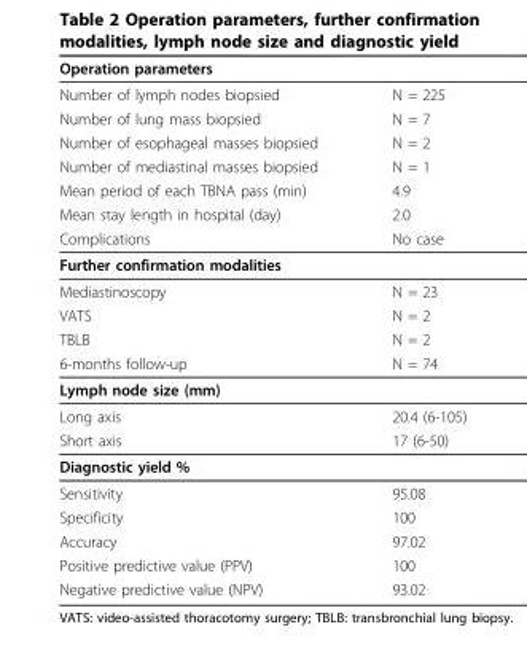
<table><thead><tr><td colspan="2">Operation parameters</td></tr><tr><td>Number of lymph nodes biopsied</td><td>N = 225</td></tr></thead><tbody><tr><td>Number of lung mass biopsied</td><td>N = 7</td></tr><tr><td>Number of esophageal masses biopsied</td><td>N = 2</td></tr><tr><td>Number of mediastinal masses biopsied</td><td>N = 1</td></tr><tr><td>Mean period of each TBNA pass (min)</td><td>4.9</td></tr><tr><td>Mean stay length in hospital (day)</td><td>2.0</td></tr><tr><td>Complications</td><td>No case</td></tr><tr><td colspan="2">Further confirmation modalities</td></tr><tr><td>Mediastinoscopy</td><td>N = 23</td></tr><tr><td>VATS</td><td>N = 2</td></tr><tr><td>TBLB</td><td>N = 2</td></tr><tr><td>6-months follow-up</td><td>N = 74</td></tr><tr><td colspan="2">Lymph node size (mm)</td></tr><tr><td>Long axis</td><td>20.4 (6-105)</td></tr><tr><td>Short axis</td><td>17 (6-50)</td></tr><tr><td colspan="2">Diagnostic yield %</td></tr><tr><td>Sensitivity</td><td>95.08</td></tr><tr><td>Specificity</td><td>100</td></tr><tr><td>Accuracy</td><td>97.02</td></tr><tr><td>Positive predictive value (PPV)</td><td>100</td></tr><tr><td>Negative predictive value (NPV)</td><td>93.02</td></tr></tbody></table>